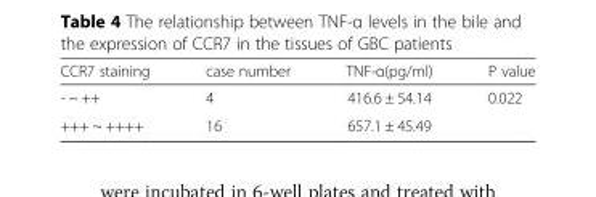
<table><thead><tr><td>CCR7 staining</td><td>case number</td><td>TNF-α(pg/ml)</td><td>P value</td></tr></thead><tbody><tr><td>- ~ ++</td><td>4</td><td>416.6 ± 54.14</td><td rowspan="2">0.022</td></tr><tr><td>+++ ~ ++++</td><td>16</td><td>657.1 ± 45.49</td></tr></tbody></table>